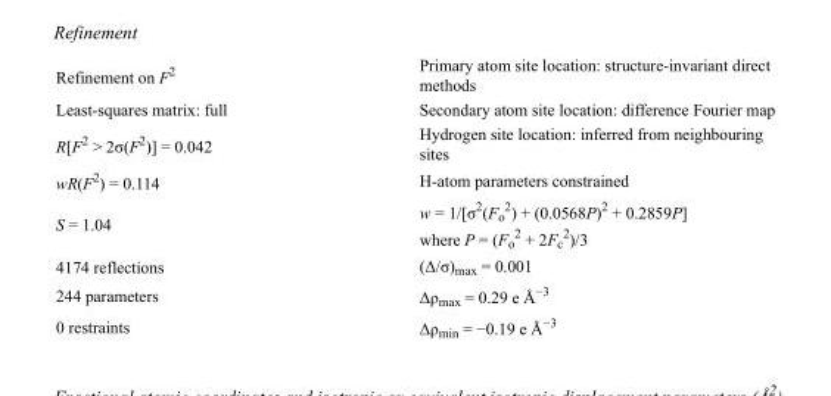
<table><tbody><tr><td>Refinement on F<sup>2</sup></td><td>Primary atom site location: structure-invariant direct methods</td></tr><tr><td>Least-squares matrix: full</td><td>Secondary atom site location: difference Fourier map</td></tr><tr><td>R[F<sup>2</sup> &gt; 2σ(F<sup>2</sup>)] = 0.042</td><td>Hydrogen site location: inferred from neighbouring sites</td></tr><tr><td>wR(F<sup>2</sup>) = 0.114</td><td>H-atom parameters constrained</td></tr><tr><td>S = 1.04</td><td>w = 1/[σ<sup>2</sup>(F<sub>o</sub> <sup>2</sup>) + (0.0568P)<sup>2</sup> + 0.2859P] where P = (F<sub>o</sub> <sup>2</sup> + 2F<sub>c</sub> <sup>2</sup>)/3</td></tr><tr><td>4174 reflections</td><td>(Δ/σ)<sub>max</sub> = 0.001</td></tr><tr><td>244 parameters</td><td>Δρ<sub>max</sub> = 0.29 e Å<sup>−3</sup></td></tr><tr><td>0 restraints</td><td>Δρ<sub>min</sub> = −0.19 e Å<sup>−3</sup></td></tr></tbody></table>